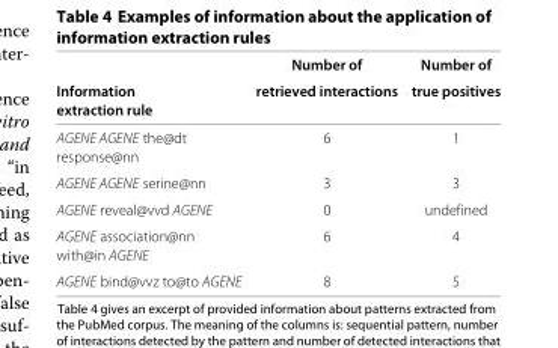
<table><thead><tr><td rowspan="3">Information extraction rule</td><td rowspan="3">Number of retrieved interactions</td><td rowspan="3">Number of true positives</td></tr><tr></tr><tr></tr></thead><tbody><tr><td>AGENE AGENE the@dt</td><td>6</td><td>1</td></tr><tr><td colspan="3">response@nn</td></tr><tr><td>AGENE AGENE serine@nn</td><td>3</td><td>3</td></tr><tr><td>AGENE reveal@vvd AGENE</td><td>0</td><td>undefined</td></tr><tr><td>AGENE association@nn</td><td>6</td><td>4</td></tr><tr><td colspan="3">with@in AGENE</td></tr><tr><td>AGENE bind@vvz to@to AGENE</td><td>8</td><td>5</td></tr></tbody></table>